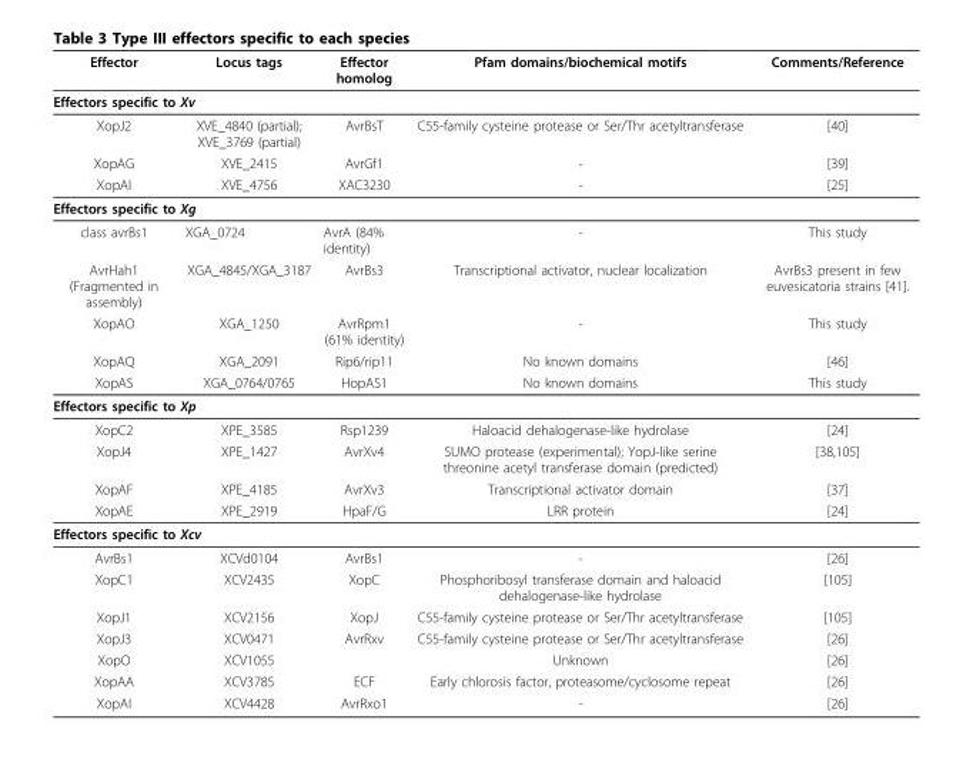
<table><thead><tr><td>Effector</td><td>Locus tags</td><td>Effector homolog</td><td>Pfam domains/biochemical motifs</td><td>Comments/Reference</td></tr></thead><tbody><tr><td colspan="5">Effectors specific to Xv</td></tr><tr><td>XopJ2</td><td>XVE_4840 (partial); XVE_3769 (partial)</td><td>AvrBsT</td><td>C55-family cysteine protease or Ser/Thr acetyltransferase</td><td>[40]</td></tr><tr><td>XopAG</td><td>XVE_2415</td><td>AvrGf1</td><td>-</td><td>[39]</td></tr><tr><td>XopAI</td><td>XVE_4756</td><td>XAC3230</td><td>-</td><td>[25]</td></tr><tr><td colspan="5">Effectors specific to Xg</td></tr><tr><td>class avrBs1</td><td>XGA_0724</td><td>AvrA (84% identity)</td><td>-</td><td>This study</td></tr><tr><td>AvrHah1 (Fragmented in assembly)</td><td>XGA_4845/XGA_3187</td><td>AvrBs3</td><td>Transcriptional activator, nuclear localization</td><td>AvrBs3 present in few euvesicatoria strains [41].</td></tr><tr><td>XopAO</td><td>XGA_1250</td><td>AvrRpm1 (61% identity)</td><td>-</td><td>This study</td></tr><tr><td>XopAQ</td><td>XGA_2091</td><td>Rip6/rip11</td><td>No known domains</td><td>[46]</td></tr><tr><td>XopAS</td><td>XGA_0764/0765</td><td>HopAS1</td><td>No known domains</td><td>This study</td></tr><tr><td colspan="5">Effectors specific to Xp</td></tr><tr><td>XopC2</td><td>XPE_3585</td><td>Rsp1239</td><td>Haloacid dehalogenase-like hydrolase</td><td>[24]</td></tr><tr><td>XopJ4</td><td>XPE_1427</td><td>AvrXv4</td><td>SUMO protease (experimental); YopJ-like serine threonine acetyl transferase domain (predicted)</td><td>[38,105]</td></tr><tr><td>XopAF</td><td>XPE_4185</td><td>AvrXv3</td><td>Transcriptional activator domain</td><td>[37]</td></tr><tr><td>XopAE</td><td>XPE_2919</td><td>HpaF/G</td><td>LRR protein</td><td>[24]</td></tr><tr><td colspan="5">Effectors specific to Xcv</td></tr><tr><td>AvrBs1</td><td>XCVd0104</td><td>AvrBs1</td><td>-</td><td>[26]</td></tr><tr><td>XopC1</td><td>XCV2435</td><td>XopC</td><td>Phosphoribosyl transferase domain and haloacid dehalogenase-like hydrolase</td><td>[105]</td></tr><tr><td>XopJ1</td><td>XCV2156</td><td>XopJ</td><td>C55-family cysteine protease or Ser/Thr acetyltransferase</td><td>[105]</td></tr><tr><td>XopJ3</td><td>XCV0471</td><td>AvrRxv</td><td>C55-family cysteine protease or Ser/Thr acetyltransferase</td><td>[26]</td></tr><tr><td>XopO</td><td>XCV1055</td><td></td><td>Unknown</td><td>[26]</td></tr><tr><td>XopAA</td><td>XCV3785</td><td>ECF</td><td>Early chlorosis factor, proteasome/cyclosome repeat</td><td>[26]</td></tr><tr><td>XopAI</td><td>XCV4428</td><td>AvrRxo1</td><td>-</td><td>[26]</td></tr></tbody></table>